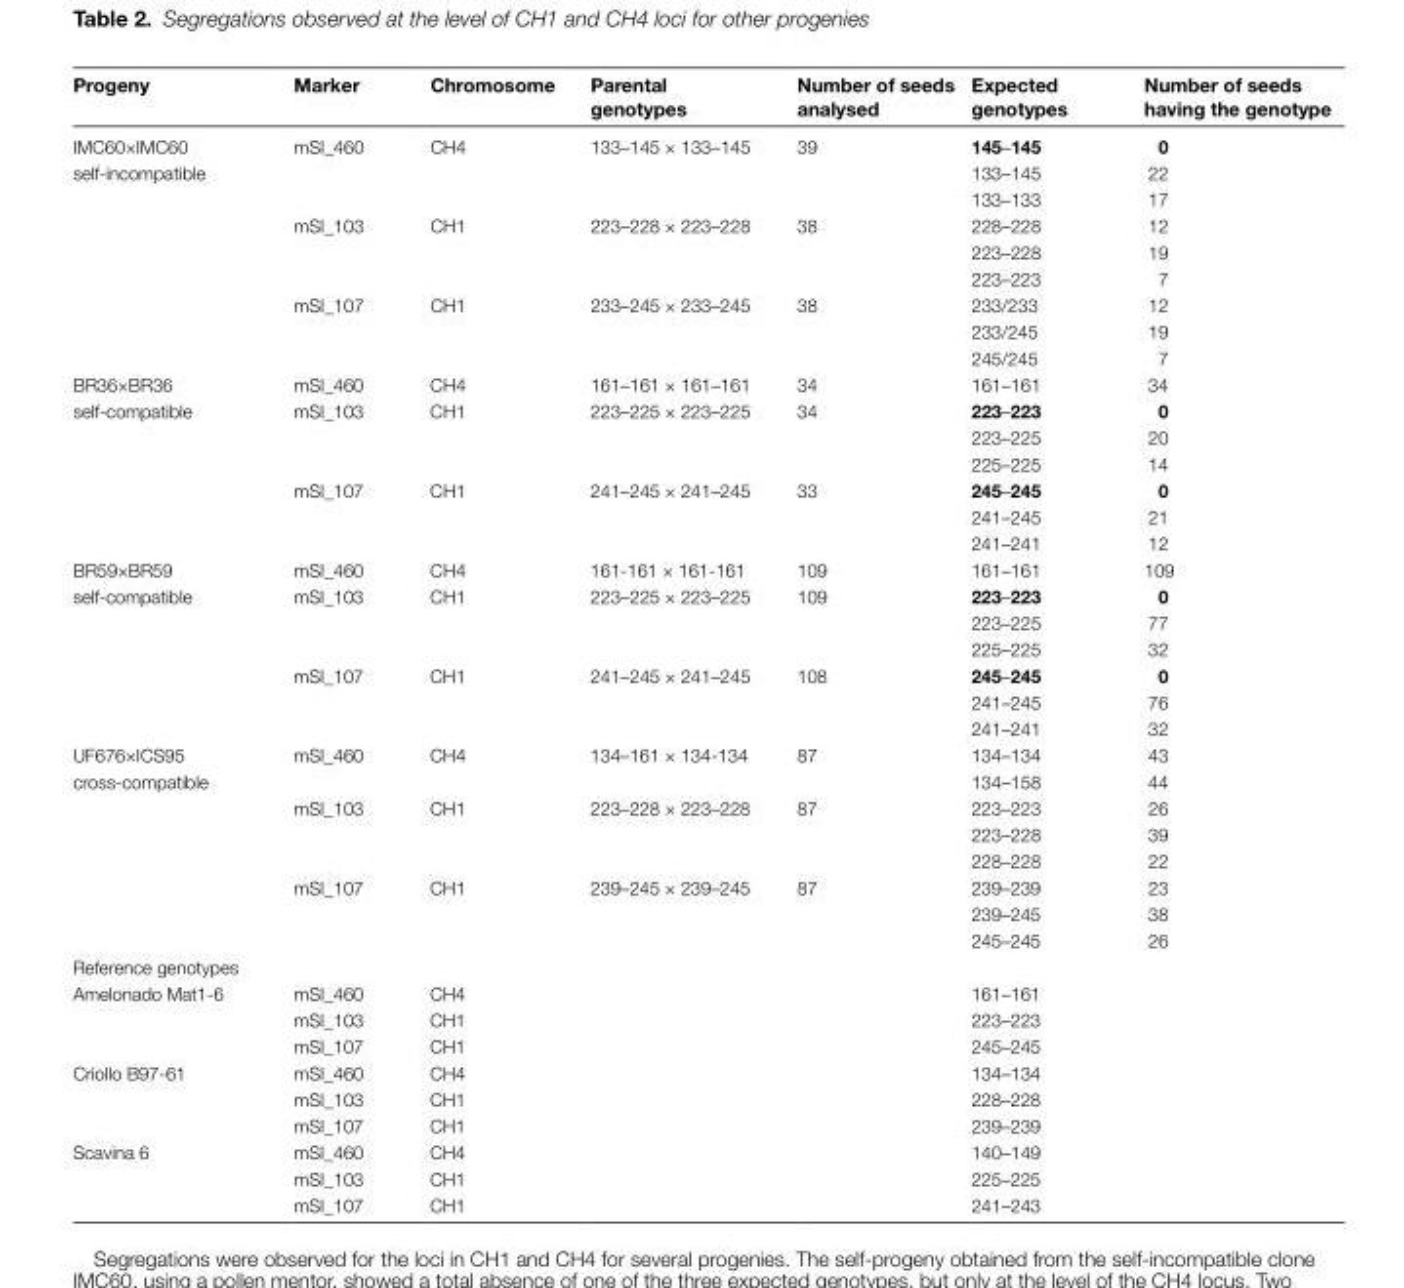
<table><thead><tr><td>Progeny</td><td>Marker</td><td>Chromosome</td><td>Parental genotypes</td><td>Number of seeds analysed</td><td>Expected genotypes</td><td>Number of seeds having the genotype</td></tr></thead><tbody><tr><td rowspan="9">IMC60×IMC60 self-incompatible</td><td rowspan="3">mSI_460</td><td rowspan="3">CH4</td><td rowspan="3">133–145 × 133–145</td><td rowspan="3">39</td><td>145–145</td><td>0</td></tr><tr><td>133–145</td><td>22</td></tr><tr><td>133–133</td><td>17</td></tr><tr><td rowspan="3">mSI_103</td><td rowspan="3">CH1</td><td rowspan="3">223–228 × 223–228</td><td rowspan="3">38</td><td>228–228</td><td>12</td></tr><tr><td>223–228</td><td>19</td></tr><tr><td>223–223</td><td>7</td></tr><tr><td rowspan="3">mSI_107</td><td rowspan="3">CH1</td><td rowspan="3">233–245 × 233–245</td><td rowspan="3">38</td><td>233/233</td><td>12</td></tr><tr><td>233/245</td><td>19</td></tr><tr><td>245/245</td><td>7</td></tr><tr><td rowspan="7">BR36×BR36 self-compatible</td><td>mSI_460</td><td>CH4</td><td>161–161 × 161–161</td><td>34</td><td>161–161</td><td>34</td></tr><tr><td rowspan="3">mSI_103</td><td rowspan="3">CH1</td><td rowspan="3">223–225 × 223–225</td><td rowspan="3">34</td><td>223–223</td><td>0</td></tr><tr><td>223–225</td><td>20</td></tr><tr><td>225–225</td><td>14</td></tr><tr><td rowspan="3">mSI_107</td><td rowspan="3">CH1</td><td rowspan="3">241–245 × 241–245</td><td rowspan="3">33</td><td>245–245</td><td>0</td></tr><tr><td>241–245</td><td>21</td></tr><tr><td>241–241</td><td>12</td></tr><tr><td rowspan="7">BR59×BR59 self-compatible</td><td>mSI_460</td><td>CH4</td><td>161-161 × 161-161</td><td>109</td><td>161–161</td><td>109</td></tr><tr><td rowspan="3">mSI_103</td><td rowspan="3">CH1</td><td rowspan="3">223–225 × 223–225</td><td rowspan="3">109</td><td>223–223</td><td>0</td></tr><tr><td>223–225</td><td>77</td></tr><tr><td>225–225</td><td>32</td></tr><tr><td rowspan="3">mSI_107</td><td rowspan="3">CH1</td><td rowspan="3">241–245 × 241–245</td><td rowspan="3">108</td><td>245–245</td><td>0</td></tr><tr><td>241–245</td><td>76</td></tr><tr><td>241–241</td><td>32</td></tr><tr><td rowspan="8">UF676×ICS95 cross-compatible</td><td rowspan="2">mSI_460</td><td rowspan="2">CH4</td><td rowspan="2">134–161 × 134-134</td><td rowspan="2">87</td><td>134–134</td><td>43</td></tr><tr><td>134–158</td><td>44</td></tr><tr><td rowspan="3">mSI_103</td><td rowspan="3">CH1</td><td rowspan="3">223–228 × 223–228</td><td rowspan="3">87</td><td>223–223</td><td>26</td></tr><tr><td>223–228</td><td>39</td></tr><tr><td>228–228</td><td>22</td></tr><tr><td rowspan="3">mSI_107</td><td rowspan="3">CH1</td><td rowspan="3">239–245 × 239–245</td><td rowspan="3">87</td><td>239–239</td><td>23</td></tr><tr><td>239–245</td><td>38</td></tr><tr><td>245–245</td><td>26</td></tr><tr><td colspan="7">Reference genotypes</td></tr><tr><td rowspan="3">Amelonado Mat1-6</td><td>mSI_460</td><td>CH4</td><td></td><td></td><td>161–161</td><td></td></tr><tr><td>mSI_103</td><td>CH1</td><td></td><td></td><td>223–223</td><td></td></tr><tr><td>mSI_107</td><td>CH1</td><td></td><td></td><td>245–245</td><td></td></tr><tr><td rowspan="3">Criollo B97-61</td><td>mSI_460</td><td>CH4</td><td></td><td></td><td>134–134</td><td></td></tr><tr><td>mSI_103</td><td>CH1</td><td></td><td></td><td>228–228</td><td></td></tr><tr><td>mSI_107</td><td>CH1</td><td></td><td></td><td>239–239</td><td></td></tr><tr><td rowspan="3">Scavina 6</td><td>mSI_460</td><td>CH4</td><td></td><td></td><td>140–149</td><td></td></tr><tr><td>mSI_103</td><td>CH1</td><td></td><td></td><td>225–225</td><td></td></tr><tr><td>mSI_107</td><td>CH1</td><td></td><td></td><td>241–243</td><td></td></tr></tbody></table>